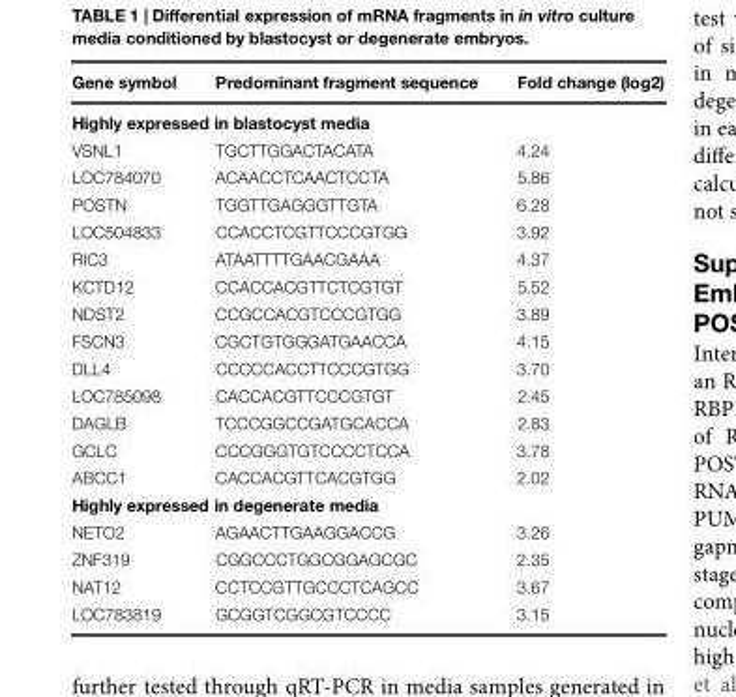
<table><thead><tr><td>Gene symbol</td><td>Predominant fragment sequence</td><td>Fold change (log2)</td></tr></thead><tbody><tr><td colspan="3">Highly expressed in blastocyst media</td></tr><tr><td>VSNL1</td><td>TGCTTGGACTACATA</td><td>4.24</td></tr><tr><td>LOC784070</td><td>ACAACCTCAACTCCTA</td><td>5.86</td></tr><tr><td>POSTN</td><td>TGGTTGAGGGTTGTA</td><td>6.28</td></tr><tr><td>LOC504833</td><td>CCACCTCGTTCCCGTGG</td><td>3.92</td></tr><tr><td>RIC3</td><td>ATAATTTTGAACGAAA</td><td>4.37</td></tr><tr><td>KCTD12</td><td>CCACCACGTTCTCGTGT</td><td>5.52</td></tr><tr><td>NDST2</td><td>CCGCCACGTCCCGTGG</td><td>3.89</td></tr><tr><td>FSCN3</td><td>CGCTGTGGGATGAACCA</td><td>4.15</td></tr><tr><td>DLL4</td><td>CCCCCACCTTCCCGTGG</td><td>3.70</td></tr><tr><td>LOC785098</td><td>CACCACGTTCCCGTGT</td><td>2.45</td></tr><tr><td>DAGLB</td><td>TCCCGGCCGATGCACCA</td><td>2.83</td></tr><tr><td>GCLC</td><td>CCCGGGTGTCCCCTCCA</td><td>3.78</td></tr><tr><td>ABCC1</td><td>CACCACGTTCACGTGG</td><td>2.02</td></tr><tr><td colspan="3">Highly expressed in degenerate media</td></tr><tr><td>NETO2</td><td>AGAACTTGAAGGACCG</td><td>3.26</td></tr><tr><td>ZNF319</td><td>CGGCCCTGGCGGAGCGC</td><td>2.35</td></tr><tr><td>NAT12</td><td>CCTCCGTTGCCCTCAGCC</td><td>3.67</td></tr><tr><td>LOC783819</td><td>GCGGTCGGCGTCCCC</td><td>3.15</td></tr></tbody></table>